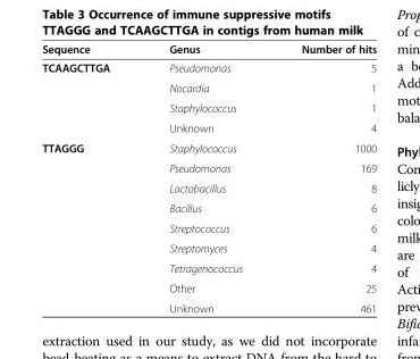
<table><thead><tr><td>Sequence</td><td>Genus</td><td>Number of hits</td></tr></thead><tbody><tr><td rowspan="4">TCAAGCTTGA</td><td>Pseudomonas</td><td>5</td></tr><tr><td>Nocardia</td><td>1</td></tr><tr><td>Staphylococcus</td><td>1</td></tr><tr><td>Unknown</td><td>4</td></tr><tr><td rowspan="9">TTAGGG</td><td>Staphylococcus</td><td>1000</td></tr><tr><td>Pseudomonas</td><td>169</td></tr><tr><td>Lactobacillus</td><td>8</td></tr><tr><td>Bacillus</td><td>6</td></tr><tr><td>Streptococcus</td><td>6</td></tr><tr><td>Streptomyces</td><td>4</td></tr><tr><td>Tetragenococcus</td><td>4</td></tr><tr><td>Other</td><td>25</td></tr><tr><td>Unknown</td><td>461</td></tr></tbody></table>